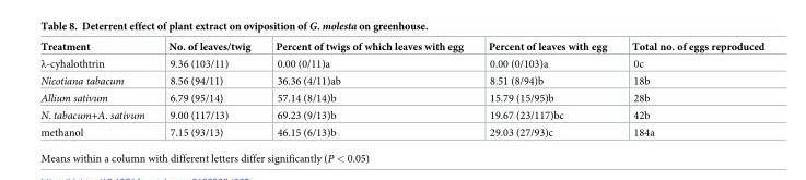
<table><thead><tr><td>Treatment</td><td>No. of leaves/twig</td><td>Percent of twigs of which leaves with egg</td><td>Percent of leaves with egg</td><td>Total no. of eggs reproduced</td></tr></thead><tbody><tr><td>λ-cyhalothtrin</td><td>9.36 (103/11)</td><td>0.00 (0/11)a</td><td>0.00 (0/103)a</td><td>0c</td></tr><tr><td>Nicotiana tabacum</td><td>8.56 (94/11)</td><td>36.36 (4/11)ab</td><td>8.51 (8/94)b</td><td>18b</td></tr><tr><td>Allium sativum</td><td>6.79 (95/14)</td><td>57.14 (8/14)b</td><td>15.79 (15/95)b</td><td>28b</td></tr><tr><td>N. tabacum+A. sativum</td><td>9.00 (117/13)</td><td>69.23 (9/13)b</td><td>19.67 (23/117)bc</td><td>42b</td></tr><tr><td>methanol</td><td>7.15 (93/13)</td><td>46.15 (6/13)b</td><td>29.03 (27/93)c</td><td>184a</td></tr></tbody></table>